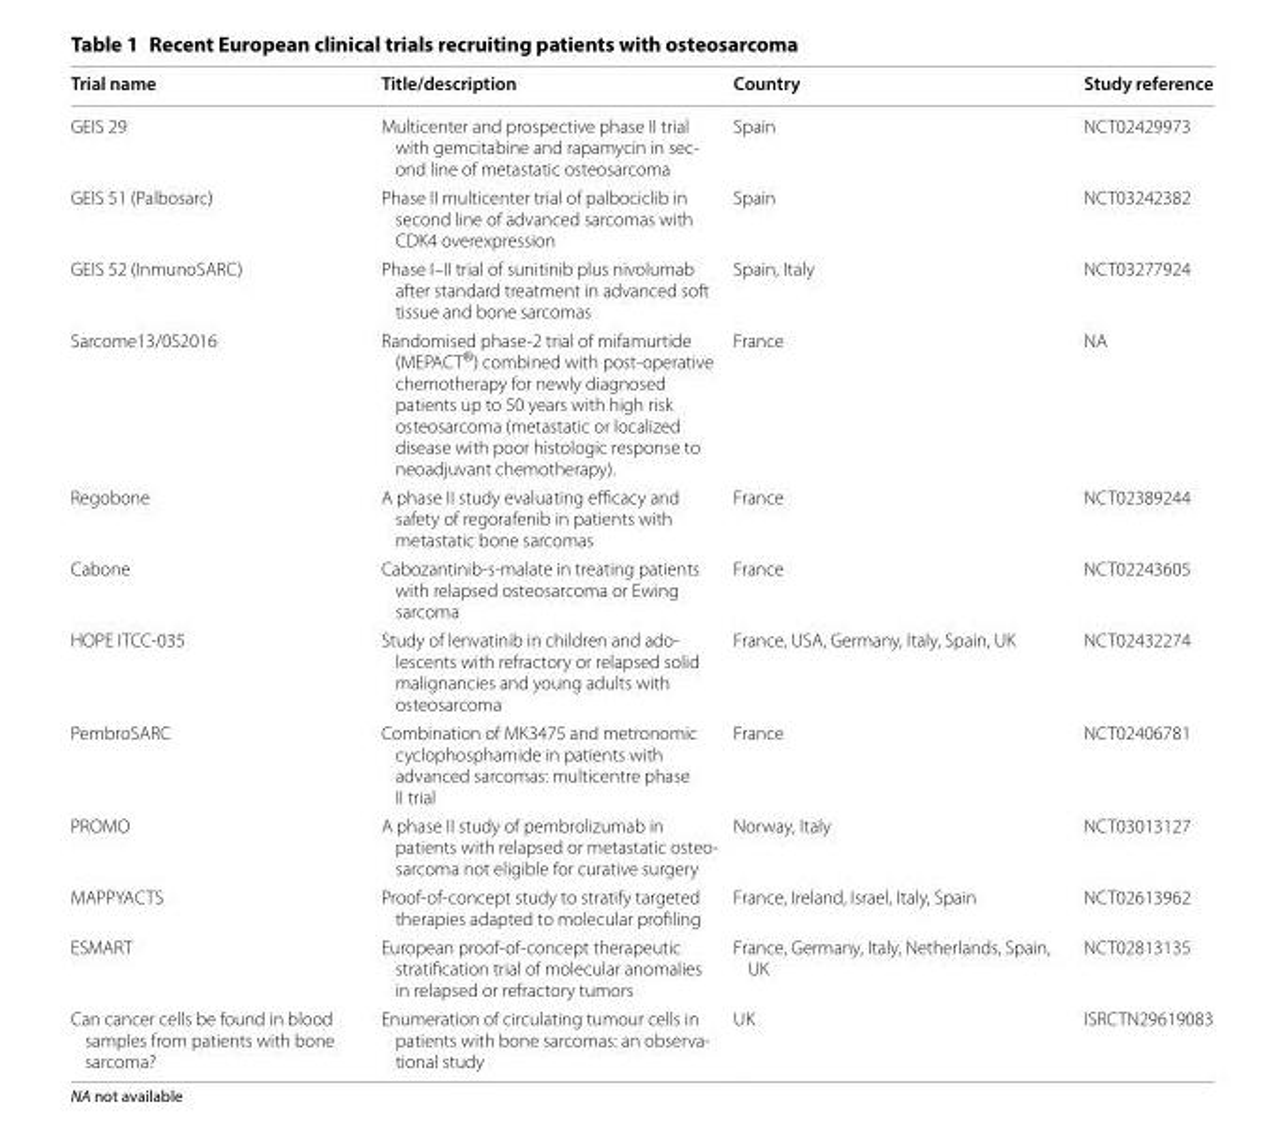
<table><thead><tr><td>Trial name</td><td>Title/description</td><td>Country</td><td>Study reference</td></tr></thead><tbody><tr><td>GEIS 29</td><td>Multicenter and prospective phase II trial with gemcitabine and rapamycin in sec‑ ond line of metastatic osteosarcoma</td><td>Spain</td><td>NCT02429973</td></tr><tr><td>GEIS 51 (Palbosarc)</td><td>Phase II multicenter trial of palbociclib in second line of advanced sarcomas with CDK4 overexpression</td><td>Spain</td><td>NCT03242382</td></tr><tr><td>GEIS 52 (InmunoSARC)</td><td>Phase I–II trial of sunitinib plus nivolumab after standard treatment in advanced soft tissue and bone sarcomas</td><td>Spain, Italy</td><td>NCT03277924</td></tr><tr><td>Sarcome13/0S2016</td><td>Randomised phase‑2 trial of mifamurtide (MEPACT <sup>®</sup>) combined with post‑operative chemotherapy for newly diagnosed patients up to 50 years with high risk osteosarcoma (metastatic or localized disease with poor histologic response to neoadjuvant chemotherapy).</td><td>France</td><td>NA</td></tr><tr><td>Regobone</td><td>A phase II study evaluating efficacy and safety of regorafenib in patients with metastatic bone sarcomas</td><td>France</td><td>NCT02389244</td></tr><tr><td>Cabone</td><td>Cabozantinib‑s‑malate in treating patients with relapsed osteosarcoma or Ewing sarcoma</td><td>France</td><td>NCT02243605</td></tr><tr><td>HOPE ITCC‑035</td><td>Study of lenvatinib in children and ado‑ lescents with refractory or relapsed solid malignancies and young adults with osteosarcoma</td><td>France, USA, Germany, Italy, Spain, UK</td><td>NCT02432274</td></tr><tr><td>PembroSARC</td><td>Combination of MK3475 and metronomic cyclophosphamide in patients with advanced sarcomas: multicentre phase II trial</td><td>France</td><td>NCT02406781</td></tr><tr><td>PROMO</td><td>A phase II study of pembrolizumab in patients with relapsed or metastatic osteo‑ sarcoma not eligible for curative surgery</td><td>Norway, Italy</td><td>NCT03013127</td></tr><tr><td>MAPPYACTS</td><td>Proof‑of‑concept study to stratify targeted therapies adapted to molecular profiling</td><td>France, Ireland, Israel, Italy, Spain</td><td>NCT02613962</td></tr><tr><td>ESMART</td><td>European proof‑of‑concept therapeutic stratification trial of molecular anomalies in relapsed or refractory tumors</td><td>France, Germany, Italy, Netherlands, Spain, UK</td><td>NCT02813135</td></tr><tr><td>Can cancer cells be found in blood samples from patients with bone sarcoma?</td><td>Enumeration of circulating tumour cells in patients with bone sarcomas: an observa‑ tional study</td><td>UK</td><td>ISRCTN29619083</td></tr></tbody></table>